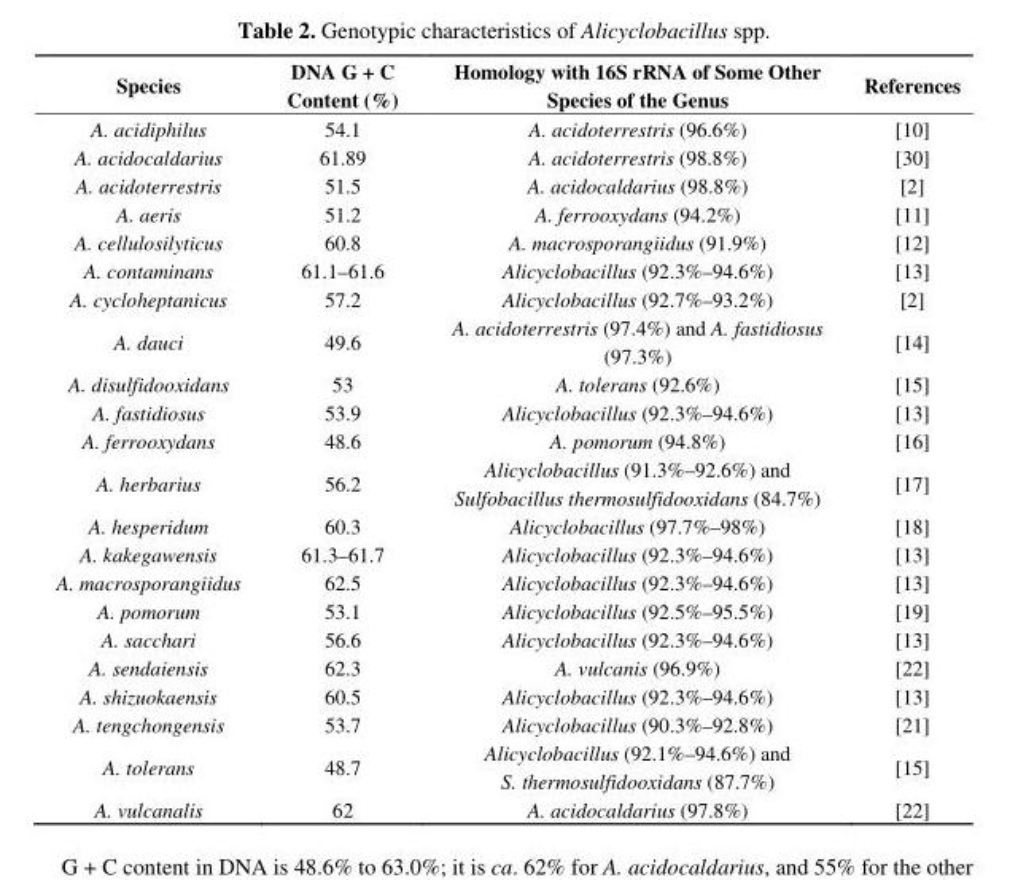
<table><thead><tr><td>Species</td><td>DNA G + C Content (%)</td><td>Homology with 16S rRNA of Some Other Species of the Genus</td><td>References</td></tr></thead><tbody><tr><td>A. acidiphilus</td><td>54.1</td><td>A. acidoterrestris (96.6%)</td><td>[10]</td></tr><tr><td>A. acidocaldarius</td><td>61.89</td><td>A. acidoterrestris (98.8%)</td><td>[30]</td></tr><tr><td>A. acidoterrestris</td><td>51.5</td><td>A. acidocaldarius (98.8%)</td><td>[2]</td></tr><tr><td>A. aeris</td><td>51.2</td><td>A. ferrooxydans (94.2%)</td><td>[11]</td></tr><tr><td>A. cellulosilyticus</td><td>60.8</td><td>A. macrosporangiidus (91.9%)</td><td>[12]</td></tr><tr><td>A. contaminans</td><td>61.1–61.6</td><td>Alicyclobacillus (92.3%–94.6%)</td><td>[13]</td></tr><tr><td>A. cycloheptanicus</td><td>57.2</td><td>Alicyclobacillus (92.7%–93.2%)</td><td>[2]</td></tr><tr><td>A. dauci</td><td>49.6</td><td>A. acidoterrestris (97.4%) and A. fastidiosus (97.3%)</td><td>[14]</td></tr><tr><td>A. disulfidooxidans</td><td>53</td><td>A. tolerans (92.6%)</td><td>[15]</td></tr><tr><td>A. fastidiosus</td><td>53.9</td><td>Alicyclobacillus (92.3%–94.6%)</td><td>[13]</td></tr><tr><td>A. ferrooxydans</td><td>48.6</td><td>A. pomorum (94.8%)</td><td>[16]</td></tr><tr><td>A. herbarius</td><td>56.2</td><td>Alicyclobacillus (91.3%–92.6%) and Sulfobacillus thermosulfidooxidans (84.7%)</td><td>[17]</td></tr><tr><td>A. hesperidum</td><td>60.3</td><td>Alicyclobacillus (97.7%–98%)</td><td>[18]</td></tr><tr><td>A. kakegawensis</td><td>61.3–61.7</td><td>Alicyclobacillus (92.3%–94.6%)</td><td>[13]</td></tr><tr><td>A. macrosporangiidus</td><td>62.5</td><td>Alicyclobacillus (92.3%–94.6%)</td><td>[13]</td></tr><tr><td>A. pomorum</td><td>53.1</td><td>Alicyclobacillus (92.5%–95.5%)</td><td>[19]</td></tr><tr><td>A. sacchari</td><td>56.6</td><td>Alicyclobacillus (92.3%–94.6%)</td><td>[13]</td></tr><tr><td>A. sendaiensis</td><td>62.3</td><td>A. vulcanis (96.9%)</td><td>[22]</td></tr><tr><td>A. shizuokaensis</td><td>60.5</td><td>Alicyclobacillus (92.3%–94.6%)</td><td>[13]</td></tr><tr><td>A. tengchongensis</td><td>53.7</td><td>Alicyclobacillus (90.3%–92.8%)</td><td>[21]</td></tr><tr><td>A. tolerans</td><td>48.7</td><td>Alicyclobacillus (92.1%–94.6%) and S. thermosulfidooxidans (87.7%)</td><td>[15]</td></tr><tr><td>A. vulcanalis</td><td>62</td><td>A. acidocaldarius (97.8%)</td><td>[22]</td></tr></tbody></table>